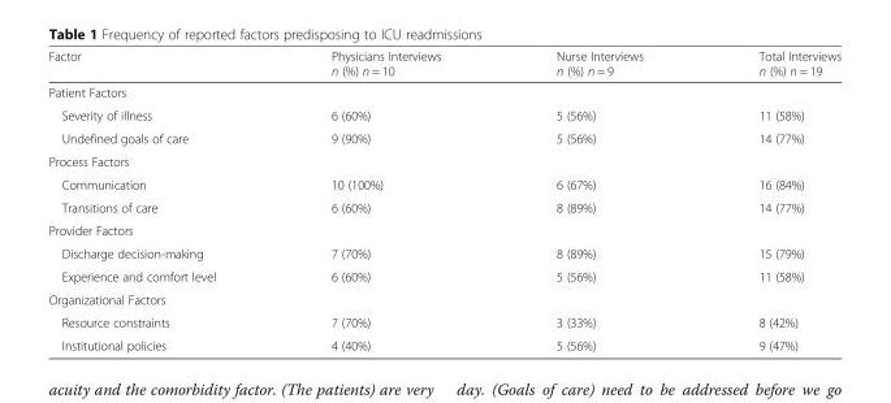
<table><thead><tr><td>Factor</td><td>Physicians Interviews n (%) n = 10</td><td>Nurse Interviews n (%) n = 9</td><td>Total Interviews n (%) n = 19</td></tr></thead><tbody><tr><td colspan="4">Patient Factors</td></tr><tr><td>Severity of illness</td><td>6 (60%)</td><td>5 (56%)</td><td>11 (58%)</td></tr><tr><td>Undefined goals of care</td><td>9 (90%)</td><td>5 (56%)</td><td>14 (77%)</td></tr><tr><td colspan="4">Process Factors</td></tr><tr><td>Communication</td><td>10 (100%)</td><td>6 (67%)</td><td>16 (84%)</td></tr><tr><td>Transitions of care</td><td>6 (60%)</td><td>8 (89%)</td><td>14 (77%)</td></tr><tr><td colspan="4">Provider Factors</td></tr><tr><td>Discharge decision-making</td><td>7 (70%)</td><td>8 (89%)</td><td>15 (79%)</td></tr><tr><td>Experience and comfort level</td><td>6 (60%)</td><td>5 (56%)</td><td>11 (58%)</td></tr><tr><td colspan="4">Organizational Factors</td></tr><tr><td>Resource constraints</td><td>7 (70%)</td><td>3 (33%)</td><td>8 (42%)</td></tr><tr><td>Institutional policies</td><td>4 (40%)</td><td>5 (56%)</td><td>9 (47%)</td></tr></tbody></table>